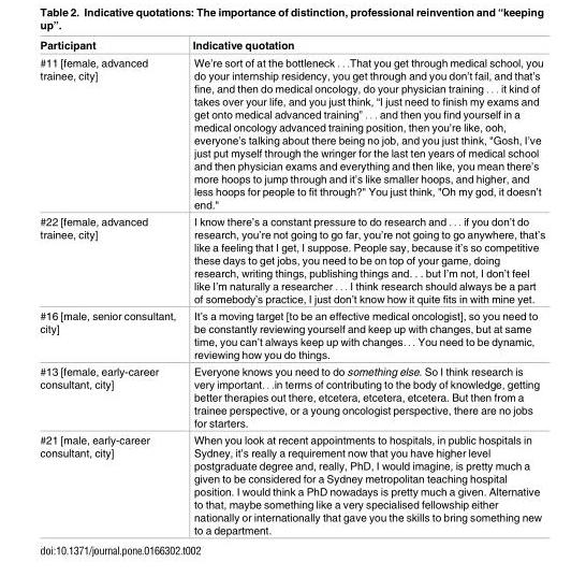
<table><thead><tr><td>Participant</td><td>Indicative quotation</td></tr></thead><tbody><tr><td>#11 [female, advanced trainee, city]</td><td>We’re sort of at the bottleneck . . .That you get through medical school, you do your internship residency, you get through and you don’t fail, and that’s fine, and then do medical oncology, do your physician training . . . it kind of takes over your life, and you just think, “I just need to finish my exams and get onto medical advanced training” . . . and then you find yourself in a medical oncology advanced training position, then you’re like, ooh, everyone’s talking about there being no job, and you just think, &quot;Gosh, I’ve just put myself through the wringer for the last ten years of medical school and then physician exams and everything and then like, you mean there’s more hoops to jump through and it’s like smaller hoops, and higher, and less hoops for people to fit through?&quot; You just think, &quot;Oh my god, it doesn’t end.&quot;</td></tr><tr><td>#22 [female, advanced trainee, city]</td><td>I know there’s a constant pressure to do research and . . . if you don’t do research, you’re not going to go far, you’re not going to go anywhere, that’s like a feeling that I get, I suppose. People say, because it’s so competitive these days to get jobs, you need to be on top of your game, doing research, writing things, publishing things and. . . but I’m not, I don’t feel like I’m naturally a researcher . . . I think research should always be a part of somebody’s practice, I just don’t know how it quite fits in with mine yet.</td></tr><tr><td>#16 [male, senior consultant, city]</td><td>It’s a moving target [to be an effective medical oncologist], so you need to be constantly reviewing yourself and keep up with changes, but at same time, you can’t always keep up with changes. . . You need to be dynamic, reviewing how you do things.</td></tr><tr><td>#13 [female, early-career consultant, city]</td><td>Everyone knows you need to do something else. So I think research is very important. . .in terms of contributing to the body of knowledge, getting better therapies out there, etcetera, etcetera, etcetera. But then from a trainee perspective, or a young oncologist perspective, there are no jobs for starters.</td></tr><tr><td>#21 [male, early-career consultant, city]</td><td>When you look at recent appointments to hospitals, in public hospitals in Sydney, it’s really a requirement now that you have higher level postgraduate degree and, really, PhD, I would imagine, is pretty much a given to be considered for a Sydney metropolitan teaching hospital position. I would think a PhD nowadays is pretty much a given. Alternative to that, maybe something like a very specialised fellowship either nationally or internationally that gave you the skills to bring something new to a department.</td></tr></tbody></table>